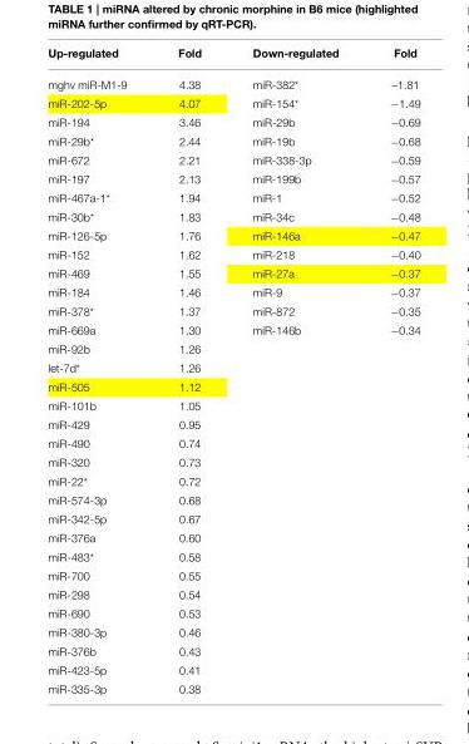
<table><thead><tr><td>Up-regulated</td><td>Fold</td><td>Down-regulated</td><td>Fold</td></tr></thead><tbody><tr><td>mghv miR-M1-9</td><td>4.38</td><td>miR-382*</td><td>–1.81</td></tr><tr><td>miR-202-5p</td><td>4.07</td><td>miR-154*</td><td>−1.49</td></tr><tr><td>miR-194</td><td>3.46</td><td>miR-29b</td><td>−0.69</td></tr><tr><td>miR-29b*</td><td>2.44</td><td>miR-19b</td><td>−0.68</td></tr><tr><td>miR-672</td><td>2.21</td><td>miR-338-3p</td><td>−0.59</td></tr><tr><td>miR-197</td><td>2.13</td><td>miR-199b</td><td>−0.57</td></tr><tr><td>miR-467a-1*</td><td>1.94</td><td>miR-1</td><td>−0.52</td></tr><tr><td>miR-30b*</td><td>1.83</td><td>miR-34c</td><td>−0.48</td></tr><tr><td>miR-126-5p</td><td>1.76</td><td>miR-146a</td><td>−0.47</td></tr><tr><td>miR-152</td><td>1.62</td><td>miR-218</td><td>−0.40</td></tr><tr><td>miR-469</td><td>1.55</td><td>miR-27a</td><td>−0.37</td></tr><tr><td>miR-184</td><td>1.46</td><td>miR-9</td><td>−0.37</td></tr><tr><td>miR-378*</td><td>1.37</td><td>miR-872</td><td>−0.35</td></tr><tr><td>miR-669a</td><td>1.30</td><td>miR-146b</td><td>−0.34</td></tr><tr><td>miR-92b</td><td>1.26</td><td></td><td></td></tr><tr><td>let-7d*</td><td>1.26</td><td></td><td></td></tr><tr><td>miR-505</td><td>1.12</td><td></td><td></td></tr><tr><td>miR-101b</td><td>1.05</td><td></td><td></td></tr><tr><td>miR-429</td><td>0.95</td><td></td><td></td></tr><tr><td>miR-490</td><td>0.74</td><td></td><td></td></tr><tr><td>miR-320</td><td>0.73</td><td></td><td></td></tr><tr><td>miR-22*</td><td>0.72</td><td></td><td></td></tr><tr><td>miR-574-3p</td><td>0.68</td><td></td><td></td></tr><tr><td>miR-342-5p</td><td>0.67</td><td></td><td></td></tr><tr><td>miR-376a</td><td>0.60</td><td></td><td></td></tr><tr><td>miR-483*</td><td>0.58</td><td></td><td></td></tr><tr><td>miR-700</td><td>0.55</td><td></td><td></td></tr><tr><td>miR-298</td><td>0.54</td><td></td><td></td></tr><tr><td>miR-690</td><td>0.53</td><td></td><td></td></tr><tr><td>miR-380-3p</td><td>0.46</td><td></td><td></td></tr><tr><td>miR-376b</td><td>0.43</td><td></td><td></td></tr><tr><td>miR-423-5p</td><td>0.41</td><td></td><td></td></tr><tr><td>miR-335-3p</td><td>0.38</td><td></td><td></td></tr></tbody></table>